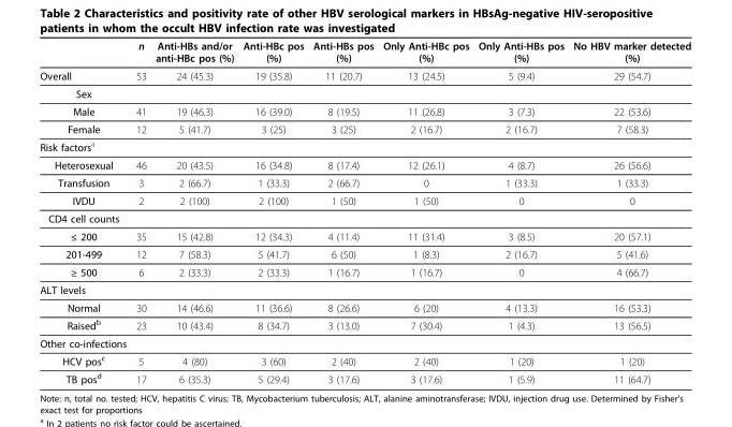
<table><thead><tr><td></td><td>n</td><td>Anti-HBs and/or anti-HBc pos (%)</td><td>Anti-HBc pos (%)</td><td>Anti-HBs pos (%)</td><td>Only Anti-HBc pos (%)</td><td>Only Anti-HBs pos (%)</td><td>No HBV marker detected (%)</td></tr></thead><tbody><tr><td>Overall</td><td>53</td><td>24 (45.3)</td><td>19 (35.8)</td><td>11 (20.7)</td><td>13 (24.5)</td><td>5 (9.4)</td><td>29 (54.7)</td></tr><tr><td colspan="8">Sex</td></tr><tr><td>Male</td><td>41</td><td>19 (46.3)</td><td>16 (39.0)</td><td>8 (19.5)</td><td>11 (26.8)</td><td>3 (7.3)</td><td>22 (53.6)</td></tr><tr><td>Female</td><td>12</td><td>5 (41.7)</td><td>3 (25)</td><td>3 (25)</td><td>2 (16.7)</td><td>2 (16.7)</td><td>7 (58.3)</td></tr><tr><td colspan="8">Risk factors<sup>a</sup></td></tr><tr><td>Heterosexual</td><td>46</td><td>20 (43.5)</td><td>16 (34.8)</td><td>8 (17.4)</td><td>12 (26.1)</td><td>4 (8.7)</td><td>26 (56.6)</td></tr><tr><td>Transfusion</td><td>3</td><td>2 (66.7)</td><td>1 (33.3)</td><td>2 (66.7)</td><td>0</td><td>1 (33.3)</td><td>1 (33.3)</td></tr><tr><td>IVDU</td><td>2</td><td>2 (100)</td><td>2 (100)</td><td>1 (50)</td><td>1 (50)</td><td>0</td><td>0</td></tr><tr><td colspan="8">CD4 cell counts</td></tr><tr><td>≤ 200</td><td>35</td><td>15 (42.8)</td><td>12 (34.3)</td><td>4 (11.4)</td><td>11 (31.4)</td><td>3 (8.5)</td><td>20 (57.1)</td></tr><tr><td>201-499</td><td>12</td><td>7 (58.3)</td><td>5 (41.7)</td><td>6 (50)</td><td>1 (8.3)</td><td>2 (16.7)</td><td>5 (41.6)</td></tr><tr><td>≥ 500</td><td>6</td><td>2 (33.3)</td><td>2 (33.3)</td><td>1 (16.7)</td><td>1 (16.7)</td><td>0</td><td>4 (66.7)</td></tr><tr><td colspan="8">ALT levels</td></tr><tr><td>Normal</td><td>30</td><td>14 (46.6)</td><td>11 (36.6)</td><td>8 (26.6)</td><td>6 (20)</td><td>4 (13.3)</td><td>16 (53.3)</td></tr><tr><td>Raised<sup>b</sup></td><td>23</td><td>10 (43.4)</td><td>8 (34.7)</td><td>3 (13.0)</td><td>7 (30.4)</td><td>1 (4.3)</td><td>13 (56.5)</td></tr><tr><td colspan="8">Other co-infections</td></tr><tr><td>HCV pos<sup>c</sup></td><td>5</td><td>4 (80)</td><td>3 (60)</td><td>2 (40)</td><td>2 (40)</td><td>1 (20)</td><td>1 (20)</td></tr><tr><td>TB pos<sup>d</sup></td><td>17</td><td>6 (35.3)</td><td>5 (29.4)</td><td>3 (17.6)</td><td>3 (17.6)</td><td>1 (5.9)</td><td>11 (64.7)</td></tr></tbody></table>